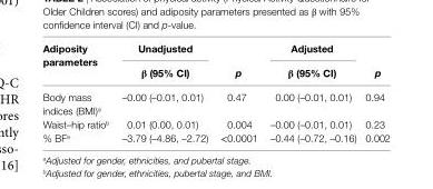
<table><thead><tr><td rowspan="2">adiposity parameters</td><td rowspan="2">Unadjusted β (95% ci)</td><td rowspan="2">p</td><td rowspan="2">adjusted β (95% ci)</td><td rowspan="2">p</td></tr><tr></tr></thead><tbody><tr><td>Body mass indices (BMI)<sup>a</sup></td><td>–0.00 (–0.01, 0.01)</td><td>0.47</td><td>0.00 (–0.01, 0.01)</td><td>0.94</td></tr><tr><td>Waist–hip ratio<sup>b</sup></td><td>0.01 (0.00, 0.01)</td><td>0.004</td><td>–0.00 (–0.01, 0.01)</td><td>0.23</td></tr><tr><td>% BF<sup>a</sup></td><td>–3.79 (–4.86, –2.72)</td><td>&lt;0.0001</td><td>–0.44 (–0.72, –0.16)</td><td>0.002</td></tr></tbody></table>